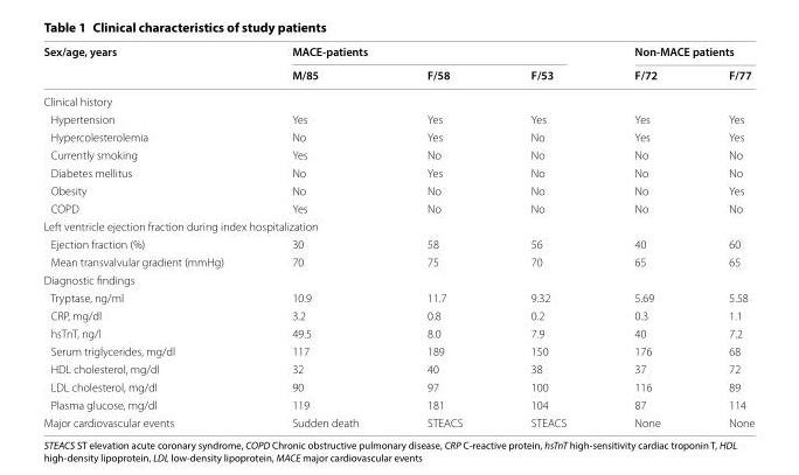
<table><thead><tr><td rowspan="2">Sex/age, years</td><td colspan="3">MACE-patients</td><td colspan="2">Non-MACE patients</td></tr><tr><td>M/85</td><td>F/58</td><td>F/53</td><td>F/72</td><td>F/77</td></tr></thead><tbody><tr><td colspan="6">Clinical history</td></tr><tr><td>Hypertension</td><td>Yes</td><td>Yes</td><td>Yes</td><td>Yes</td><td>Yes</td></tr><tr><td>Hypercolesterolemia</td><td>No</td><td>Yes</td><td>No</td><td>Yes</td><td>Yes</td></tr><tr><td>Currently smoking</td><td>Yes</td><td>No</td><td>No</td><td>No</td><td>No</td></tr><tr><td>Diabetes mellitus</td><td>No</td><td>Yes</td><td>No</td><td>No</td><td>No</td></tr><tr><td>Obesity</td><td>No</td><td>No</td><td>No</td><td>No</td><td>Yes</td></tr><tr><td>COPD</td><td>Yes</td><td>No</td><td>No</td><td>No</td><td>No</td></tr><tr><td colspan="6">Left ventricle ejection fraction during index hospitalization</td></tr><tr><td>Ejection fraction (%)</td><td>30</td><td>58</td><td>56</td><td>40</td><td>60</td></tr><tr><td>Mean transvalvular gradient (mmHg)</td><td>70</td><td>75</td><td>70</td><td>65</td><td>65</td></tr><tr><td colspan="6">Diagnostic findings</td></tr><tr><td>Tryptase, ng/ml</td><td>10.9</td><td>11.7</td><td>9.32</td><td>5.69</td><td>5.58</td></tr><tr><td>CRP, mg/dl</td><td>3.2</td><td>0.8</td><td>0.2</td><td>0.3</td><td>1.1</td></tr><tr><td>hsTnT, ng/l</td><td>49.5</td><td>8.0</td><td>7.9</td><td>40</td><td>7.2</td></tr><tr><td>Serum triglycerides, mg/dl</td><td>117</td><td>189</td><td>150</td><td>176</td><td>68</td></tr><tr><td>HDL cholesterol, mg/dl</td><td>32</td><td>40</td><td>38</td><td>37</td><td>72</td></tr><tr><td>LDL cholesterol, mg/dl</td><td>90</td><td>97</td><td>100</td><td>116</td><td>89</td></tr><tr><td>Plasma glucose, mg/dl</td><td>119</td><td>181</td><td>104</td><td>87</td><td>114</td></tr><tr><td>Major cardiovascular events</td><td>Sudden death</td><td>STEACS</td><td>STEACS</td><td>None</td><td>None</td></tr></tbody></table>